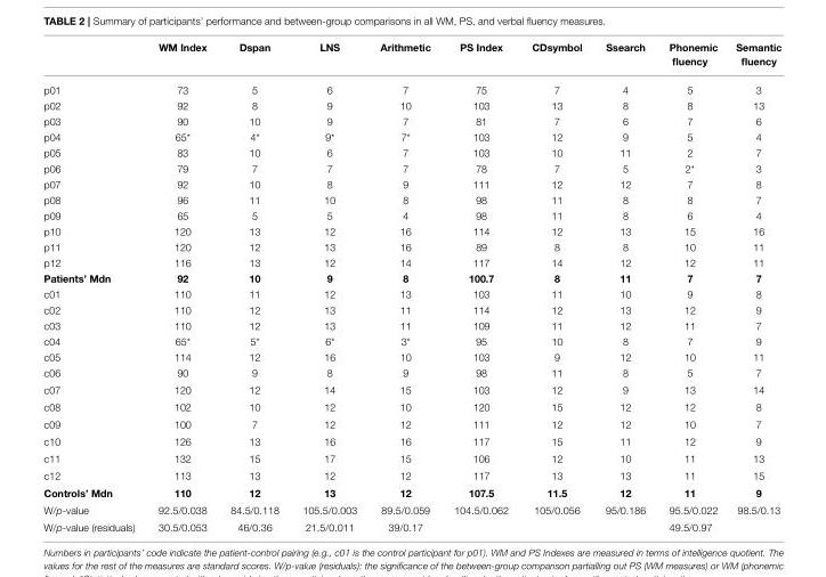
<table><thead><tr><td></td><td>WM Index</td><td>Dspan</td><td>LNS</td><td>Arithmetic</td><td>PS Index</td><td>CDsymbol</td><td>Ssearch</td><td>Phonemic fluency</td><td>Semantic fluency</td></tr></thead><tbody><tr><td>p01</td><td>73</td><td>5</td><td>6</td><td>7</td><td>75</td><td>7</td><td>4</td><td>5</td><td>3</td></tr><tr><td>p02</td><td>92</td><td>8</td><td>9</td><td>10</td><td>103</td><td>13</td><td>8</td><td>8</td><td>13</td></tr><tr><td>p03</td><td>90</td><td>10</td><td>9</td><td>7</td><td>81</td><td>7</td><td>6</td><td>7</td><td>6</td></tr><tr><td>p04</td><td>65*</td><td>4*</td><td>9*</td><td>7*</td><td>103</td><td>12</td><td>9</td><td>5</td><td>4</td></tr><tr><td>p05</td><td>83</td><td>10</td><td>6</td><td>7</td><td>103</td><td>10</td><td>11</td><td>2</td><td>7</td></tr><tr><td>p06</td><td>79</td><td>7</td><td>7</td><td>7</td><td>78</td><td>7</td><td>5</td><td>2*</td><td>3</td></tr><tr><td>p07</td><td>92</td><td>10</td><td>8</td><td>9</td><td>111</td><td>12</td><td>12</td><td>7</td><td>8</td></tr><tr><td>p08</td><td>96</td><td>11</td><td>10</td><td>8</td><td>98</td><td>11</td><td>8</td><td>8</td><td>7</td></tr><tr><td>p09</td><td>65</td><td>5</td><td>5</td><td>4</td><td>98</td><td>11</td><td>8</td><td>6</td><td>4</td></tr><tr><td>p10</td><td>120</td><td>13</td><td>12</td><td>16</td><td>114</td><td>12</td><td>13</td><td>15</td><td>16</td></tr><tr><td>p11</td><td>120</td><td>12</td><td>13</td><td>16</td><td>89</td><td>8</td><td>8</td><td>10</td><td>11</td></tr><tr><td>p12</td><td>116</td><td>13</td><td>12</td><td>14</td><td>117</td><td>14</td><td>12</td><td>12</td><td>11</td></tr><tr><td>Patients’ Mdn</td><td>92</td><td>10</td><td>9</td><td>8</td><td>100.7</td><td>8</td><td>11</td><td>7</td><td>7</td></tr><tr><td>c01</td><td>110</td><td>11</td><td>12</td><td>13</td><td>103</td><td>11</td><td>10</td><td>9</td><td>8</td></tr><tr><td>c02</td><td>110</td><td>12</td><td>13</td><td>11</td><td>114</td><td>12</td><td>13</td><td>12</td><td>9</td></tr><tr><td>c03</td><td>110</td><td>12</td><td>13</td><td>11</td><td>109</td><td>11</td><td>12</td><td>11</td><td>7</td></tr><tr><td>c04</td><td>65*</td><td>5*</td><td>6*</td><td>3*</td><td>95</td><td>10</td><td>8</td><td>7</td><td>9</td></tr><tr><td>c05</td><td>114</td><td>12</td><td>16</td><td>10</td><td>103</td><td>9</td><td>12</td><td>10</td><td>11</td></tr><tr><td>c06</td><td>90</td><td>9</td><td>8</td><td>9</td><td>98</td><td>11</td><td>8</td><td>5</td><td>7</td></tr><tr><td>c07</td><td>120</td><td>12</td><td>14</td><td>15</td><td>103</td><td>12</td><td>9</td><td>13</td><td>14</td></tr><tr><td>c08</td><td>102</td><td>10</td><td>12</td><td>10</td><td>120</td><td>15</td><td>12</td><td>12</td><td>8</td></tr><tr><td>c09</td><td>100</td><td>7</td><td>12</td><td>12</td><td>111</td><td>12</td><td>12</td><td>10</td><td>7</td></tr><tr><td>c10</td><td>126</td><td>13</td><td>16</td><td>16</td><td>117</td><td>15</td><td>11</td><td>12</td><td>9</td></tr><tr><td>c11</td><td>132</td><td>15</td><td>17</td><td>15</td><td>106</td><td>12</td><td>10</td><td>11</td><td>13</td></tr><tr><td>c12</td><td>113</td><td>13</td><td>12</td><td>12</td><td>117</td><td>13</td><td>13</td><td>11</td><td>15</td></tr><tr><td>Controls’ Mdn</td><td>110</td><td>12</td><td>13</td><td>12</td><td>107.5</td><td>11.5</td><td>12</td><td>11</td><td>9</td></tr><tr><td>W/p-value</td><td>92.5/0.038</td><td>84.5/0.118</td><td>105.5/0.003</td><td>89.5/0.059</td><td>104.5/0.062</td><td>105/0.056</td><td>95/0.186</td><td>95.5/0.022</td><td>98.5/0.13</td></tr><tr><td>W/p-value (residuals)</td><td>30.5/0.053</td><td>46/0.36</td><td>21.5/0.011</td><td>39/0.17</td><td></td><td></td><td></td><td>49.5/0.97</td><td></td></tr></tbody></table>